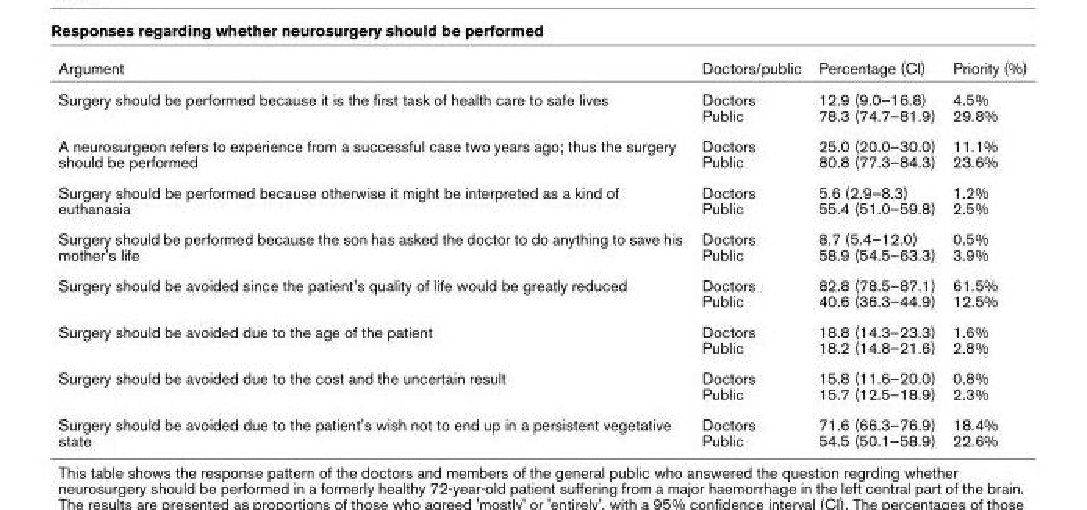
<table><thead><tr><td>Argument</td><td>Doctors/public</td><td>Percentage (CI)</td><td>Priority (%)</td></tr></thead><tbody><tr><td>Surgery should be performed because it is the first task of health care to safe lives</td><td>Doctors Public</td><td>12.9 (9.0–16.8) 78.3 (74.7–81.9)</td><td>4.5% 29.8%</td></tr><tr><td>A neurosurgeon refers to experience from a successful case two years ago; thus the surgery should be performed</td><td>Doctors Public</td><td>25.0 (20.0–30.0) 80.8 (77.3–84.3)</td><td>11.1% 23.6%</td></tr><tr><td>Surgery should be performed because otherwise it might be interpreted as a kind of euthanasia</td><td>Doctors Public</td><td>5.6 (2.9–8.3) 55.4 (51.0–59.8)</td><td>1.2% 2.5%</td></tr><tr><td>Surgery should be performed because the son has asked the doctor to do anything to save his mother&#x27;s life</td><td>Doctors Public</td><td>8.7 (5.4–12.0) 58.9 (54.5–63.3)</td><td>0.5% 3.9%</td></tr><tr><td>Surgery should be avoided since the patient&#x27;s quality of life would be greatly reduced</td><td>Doctors Public</td><td>82.8 (78.5–87.1) 40.6 (36.3–44.9)</td><td>61.5% 12.5%</td></tr><tr><td>Surgery should be avoided due to the age of the patient</td><td>Doctors Public</td><td>18.8 (14.3–23.3) 18.2 (14.8–21.6)</td><td>1.6% 2.8%</td></tr><tr><td>Surgery should be avoided due to the cost and the uncertain result</td><td>Doctors Public</td><td>15.8 (11.6–20.0) 15.7 (12.5–18.9)</td><td>0.8% 2.3%</td></tr><tr><td>Surgery should be avoided due to the patient&#x27;s wish not to end up in a persistent vegetative state</td><td>Doctors Public</td><td>71.6 (66.3–76.9) 54.5 (50.1–58.9)</td><td>18.4% 22.6%</td></tr></tbody></table>